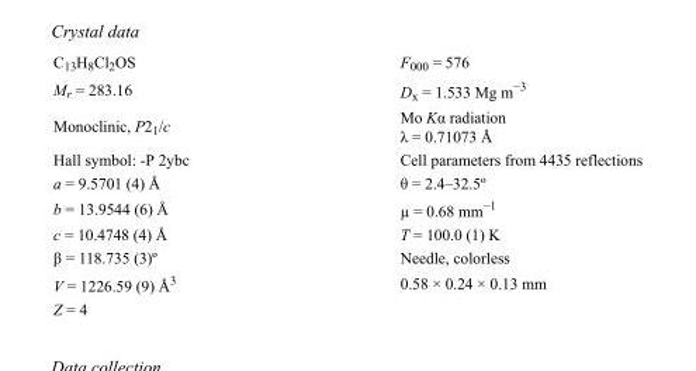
<table><tbody><tr><td>C<sub>13</sub>H<sub>8</sub>Cl<sub>2</sub>OS</td><td>F<sub>000</sub> = 576</td></tr><tr><td>M<sub>r</sub> = 283.16</td><td>D<sub>x</sub> = 1.533 Mg m<sup>−3</sup></td></tr><tr><td>Monoclinic, P2<sub>1</sub>/c</td><td>Mo Kα radiation λ = 0.71073 Å</td></tr><tr><td>Hall symbol: -P 2ybc</td><td>Cell parameters from 4435 reflections</td></tr><tr><td>a = 9.5701 (4) Å</td><td>θ = 2.4–32.5º</td></tr><tr><td>b = 13.9544 (6) Å</td><td>µ = 0.68 mm<sup>−1</sup></td></tr><tr><td>c = 10.4748 (4) Å</td><td>T = 100.0 (1) K</td></tr><tr><td>β = 118.735 (3)º</td><td>Needle, colorless</td></tr><tr><td>V = 1226.59 (9) Å<sup>3</sup></td><td>0.58 × 0.24 × 0.13 mm</td></tr><tr><td>Z = 4</td><td></td></tr></tbody></table>